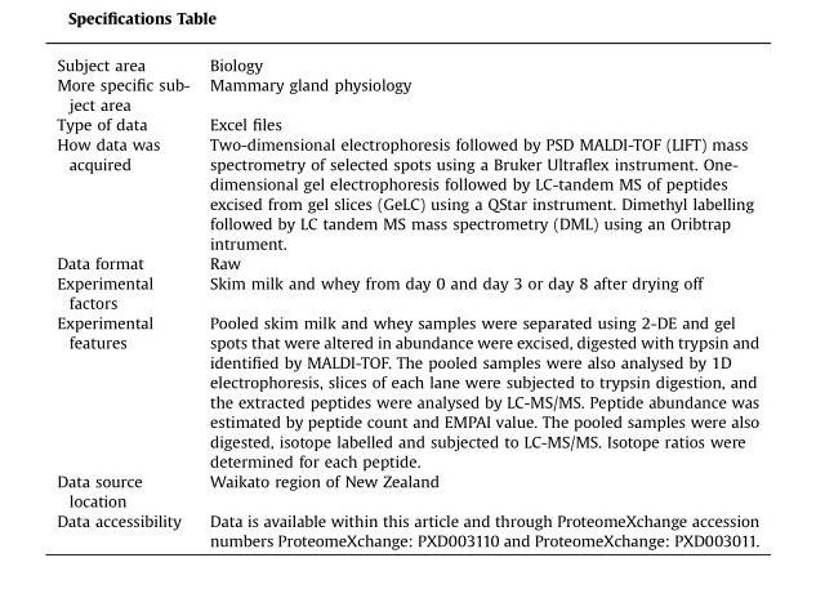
<table><tbody><tr><td>Subject area</td><td>Biology</td></tr><tr><td>More specific sub- ject area</td><td>Mammary gland physiology</td></tr><tr><td>Type of data</td><td>Excel files</td></tr><tr><td>How data was acquired</td><td>Two-dimensional electrophoresis followed by PSD MALDI-TOF (LIFT) mass spectrometry of selected spots using a Bruker Ultraflex instrument. One- dimensional gel electrophoresis followed by LC-tandem MS of peptides excised from gel slices (GeLC) using a QStar instrument. Dimethyl labelling followed by LC tandem MS mass spectrometry (DML) using an Oribtrap intrument.</td></tr><tr><td>Data format</td><td>Raw</td></tr><tr><td>Experimental factors</td><td>Skim milk and whey from day 0 and day 3 or day 8 after drying off</td></tr><tr><td>Experimental features</td><td>Pooled skim milk and whey samples were separated using 2-DE and gel spots that were altered in abundance were excised, digested with trypsin and identified by MALDI-TOF. The pooled samples were also analysed by 1D electrophoresis, slices of each lane were subjected to trypsin digestion, and the extracted peptides were analysed by LC-MS/MS. Peptide abundance was estimated by peptide count and EMPAI value. The pooled samples were also digested, isotope labelled and subjected to LC-MS/MS. Isotope ratios were determined for each peptide.</td></tr><tr><td>Data source location</td><td>Waikato region of New Zealand</td></tr><tr><td>Data accessibility</td><td>Data is available within this article and through ProteomeXchange accession numbers ProteomeXchange: PXD003110 and ProteomeXchange: PXD003011.</td></tr></tbody></table>